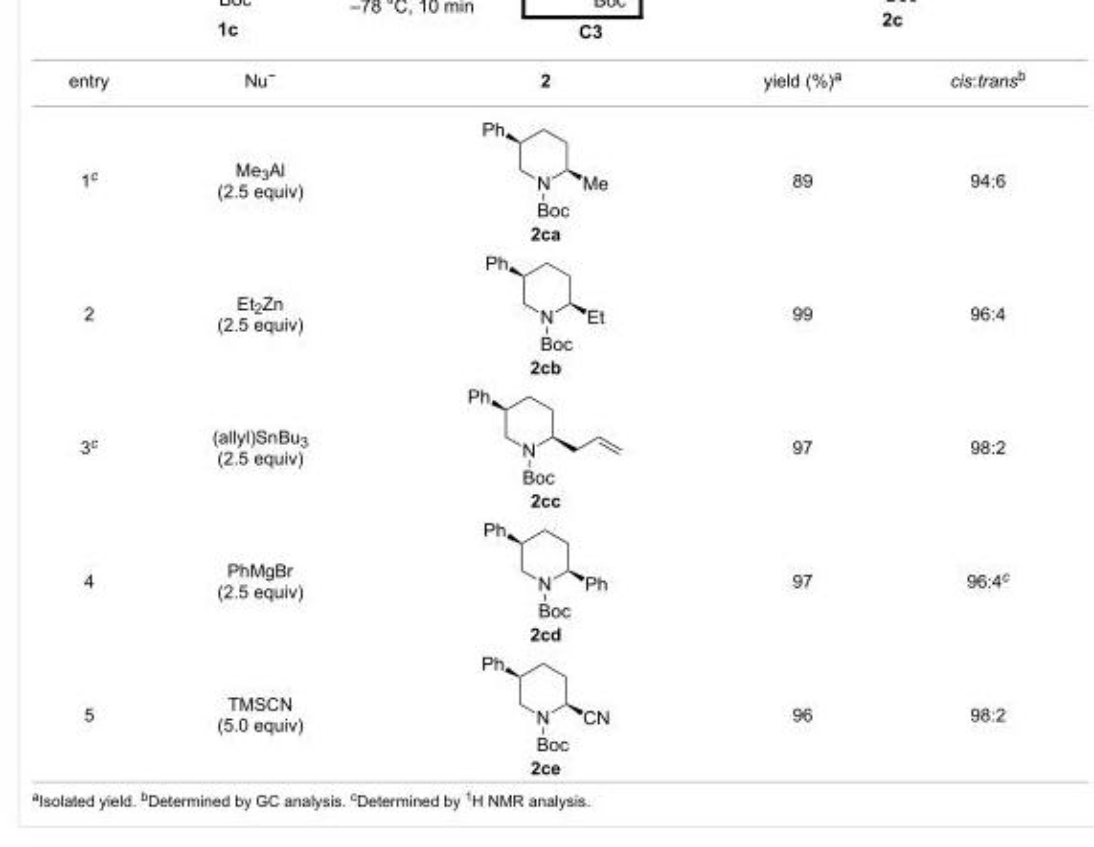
<table><tbody><tr><td>entry</td><td>Nu<sup>−</sup></td><td>2</td><td>yield (%)<sup>a</sup></td><td>cis:trans<sup>b</sup></td></tr><tr><td>1<sup>c</sup></td><td>Me<sub>3</sub>Al (2.5 equiv)</td><td>2ca</td><td>89</td><td>94:6</td></tr><tr><td>2</td><td>Et<sub>2</sub>Zn (2.5 equiv)</td><td>2cb</td><td>99</td><td>96:4</td></tr><tr><td>3<sup>c</sup></td><td>(allyl)SnBu<sub>3</sub> (2.5 equiv)</td><td>2cc</td><td>97</td><td>98:2</td></tr><tr><td>4</td><td>PhMgBr (2.5 equiv)</td><td>2cd</td><td>97</td><td>96:4<sup>c</sup></td></tr><tr><td>5</td><td>TMSCN (5.0 equiv)</td><td>2ce</td><td>96</td><td>98:2</td></tr></tbody></table>